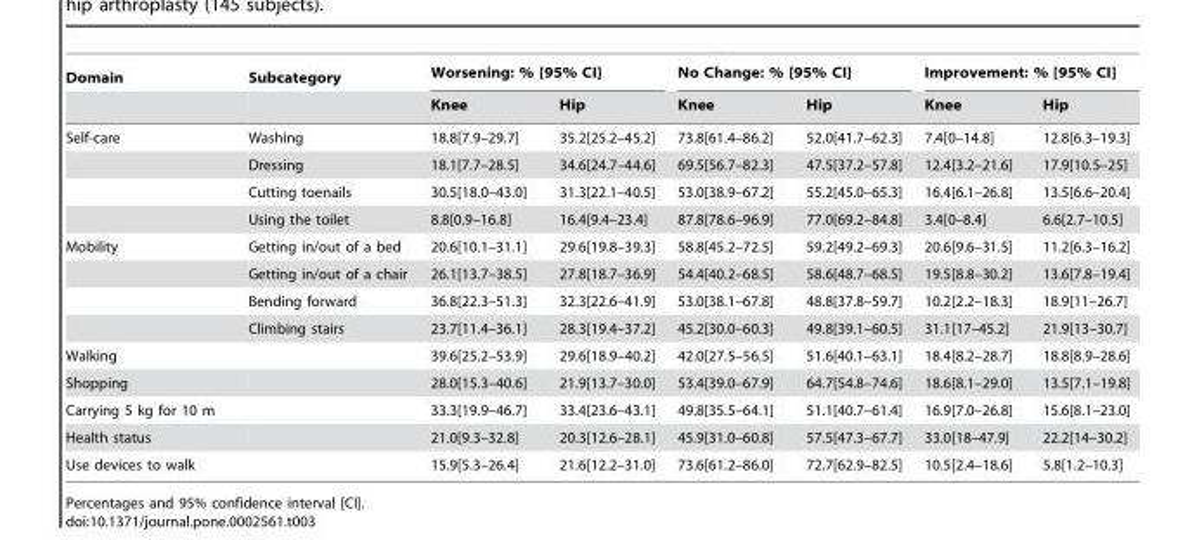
<table><thead><tr><td rowspan="2">Domain</td><td rowspan="2">Subcategory</td><td colspan="2">Worsening: % [95% CI]</td><td colspan="2">No Change: % [95% CI]</td><td colspan="2">Improvement: % [95% CI]</td></tr><tr><td>Knee</td><td>Hip</td><td>Knee</td><td>Hip</td><td>Knee</td><td>Hip</td></tr></thead><tbody><tr><td rowspan="4">Self-care</td><td>Washing</td><td>18.8[7.9–29.7]</td><td>35.2[25.2–45.2]</td><td>73.8[61.4–86.2]</td><td>52.0[41.7–62.3]</td><td>7.4[0–14.8]</td><td>12.8[6.3–19.3]</td></tr><tr><td>Dressing</td><td>18.1[7.7–28.5]</td><td>34.6[24.7–44.6]</td><td>69.5[56.7–82.3]</td><td>47.5[37.2–57.8]</td><td>12.4[3.2–21.6]</td><td>17.9[10.5–25]</td></tr><tr><td>Cutting toenails</td><td>30.5[18.0–43.0]</td><td>31.3[22.1–40.5]</td><td>53.0[38.9–67.2]</td><td>55.2[45.0–65.3]</td><td>16.4[6.1–26.8]</td><td>13.5[6.6–20.4]</td></tr><tr><td>Using the toilet</td><td>8.8[0.9–16.8]</td><td>16.4[9.4–23.4]</td><td>87.8[78.6–96.9]</td><td>77.0[69.2–84.8]</td><td>3.4[0–8.4]</td><td>6.6[2.7–10.5]</td></tr><tr><td rowspan="4">Mobility</td><td>Getting in/out of a bed</td><td>20.6[10.1–31.1]</td><td>29.6[19.8–39.3]</td><td>58.8[45.2–72.5]</td><td>59.2[49.2–69.3]</td><td>20.6[9.6–31.5]</td><td>11.2[6.3–16.2]</td></tr><tr><td>Getting in/out of a chair</td><td>26.1[13.7–38.5]</td><td>27.8[18.7–36.9]</td><td>54.4[40.2–68.5]</td><td>58.6[48.7–68.5]</td><td>19.5[8.8–30.2]</td><td>13.6[7.8–19.4]</td></tr><tr><td>Bending forward</td><td>36.8[22.3–51.3]</td><td>32.3[22.6–41.9]</td><td>53.0[38.1–67.8]</td><td>48.8[37.8–59.7]</td><td>10.2[2.2–18.3]</td><td>18.9[11–26.7]</td></tr><tr><td>Climbing stairs</td><td>23.7[11.4–36.1]</td><td>28.3[19.4–37.2]</td><td>45.2[30.0–60.3]</td><td>49.8[39.1–60.5]</td><td>31.1[17–45.2]</td><td>21.9[13–30.7]</td></tr><tr><td>Walking</td><td></td><td>39.6[25.2–53.9]</td><td>29.6[18.9–40.2]</td><td>42.0[27.5–56.5]</td><td>51.6[40.1–63.1]</td><td>18.4[8.2–28.7]</td><td>18.8[8.9–28.6]</td></tr><tr><td>Shopping</td><td></td><td>28.0[15.3–40.6]</td><td>21.9[13.7–30.0]</td><td>53.4[39.0–67.9]</td><td>64.7[54.8–74.6]</td><td>18.6[8.1–29.0]</td><td>13.5[7.1–19.8]</td></tr><tr><td>Carrying 5 kg for 10 m</td><td></td><td>33.3[19.9–46.7]</td><td>33.4[23.6–43.1]</td><td>49.8[35.5–64.1]</td><td>51.1[40.7–61.4]</td><td>16.9[7.0–26.8]</td><td>15.6[8.1–23.0]</td></tr><tr><td>Health status</td><td></td><td>21.0[9.3–32.8]</td><td>20.3[12.6–28.1]</td><td>45.9[31.0–60.8]</td><td>57.5[47.3–67.7]</td><td>33.0[18–47.9]</td><td>22.2[14–30.2]</td></tr><tr><td>Use devices to walk</td><td></td><td>15.9[5.3–26.4]</td><td>21.6[12.2–31.0]</td><td>73.6[61.2–86.0]</td><td>72.7[62.9–82.5]</td><td>10.5[2.4–18.6]</td><td>5.8[1.2–10.3]</td></tr></tbody></table>